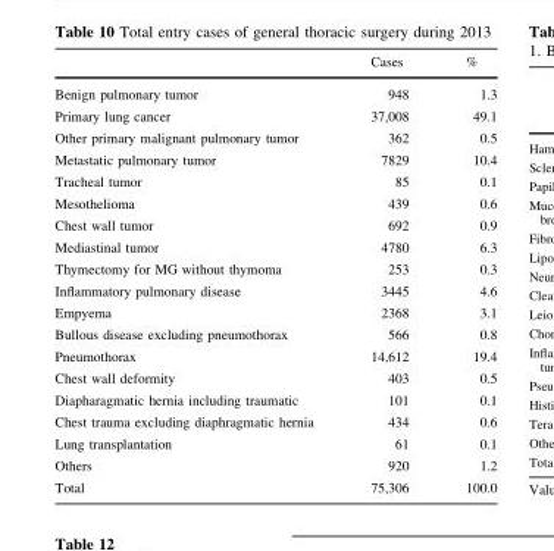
<table><thead><tr><td></td><td>Cases</td><td>%</td></tr></thead><tbody><tr><td>Benign pulmonary tumor</td><td>948</td><td>1.3</td></tr><tr><td>Primary lung cancer</td><td>37,008</td><td>49.1</td></tr><tr><td>Other primary malignant pulmonary tumor</td><td>362</td><td>0.5</td></tr><tr><td>Metastatic pulmonary tumor</td><td>7829</td><td>10.4</td></tr><tr><td>Tracheal tumor</td><td>85</td><td>0.1</td></tr><tr><td>Mesothelioma</td><td>439</td><td>0.6</td></tr><tr><td>Chest wall tumor</td><td>692</td><td>0.9</td></tr><tr><td>Mediastinal tumor</td><td>4780</td><td>6.3</td></tr><tr><td>Thymectomy for MG without thymoma</td><td>253</td><td>0.3</td></tr><tr><td>Inflammatory pulmonary disease</td><td>3445</td><td>4.6</td></tr><tr><td>Empyema</td><td>2368</td><td>3.1</td></tr><tr><td>Bullous disease excluding pneumothorax</td><td>566</td><td>0.8</td></tr><tr><td>Pneumothorax</td><td>14,612</td><td>19.4</td></tr><tr><td>Chest wall deformity</td><td>403</td><td>0.5</td></tr><tr><td>Diapharagmatic hernia including traumatic</td><td>101</td><td>0.1</td></tr><tr><td>Chest trauma excluding diaphragmatic hernia</td><td>434</td><td>0.6</td></tr><tr><td>Lung transplantation</td><td>61</td><td>0.1</td></tr><tr><td>Others</td><td>920</td><td>1.2</td></tr><tr><td>Total</td><td>75,306</td><td>100.0</td></tr></tbody></table>